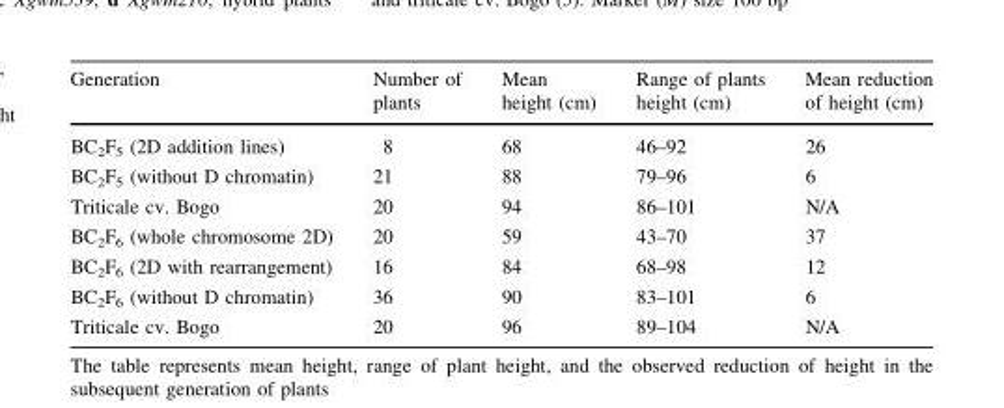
<table><thead><tr><td>Generation</td><td>Number of plants</td><td>Mean height (cm)</td><td>Range of plants height (cm)</td><td>Mean reduction of height (cm)</td></tr></thead><tbody><tr><td>BC<sub>2</sub>F<sub>5</sub> (2D addition lines)</td><td>8</td><td>68</td><td>46–92</td><td>26</td></tr><tr><td>BC<sub>2</sub>F<sub>5</sub> (without D chromatin)</td><td>21</td><td>88</td><td>79–96</td><td>6</td></tr><tr><td>Triticale cv. Bogo</td><td>20</td><td>94</td><td>86–101</td><td>N/A</td></tr><tr><td>BC<sub>2</sub>F<sub>6</sub> (whole chromosome 2D)</td><td>20</td><td>59</td><td>43–70</td><td>37</td></tr><tr><td>BC<sub>2</sub>F<sub>6</sub> (2D with rearrangement)</td><td>16</td><td>84</td><td>68–98</td><td>12</td></tr><tr><td>BC<sub>2</sub>F<sub>6</sub> (without D chromatin)</td><td>36</td><td>90</td><td>83–101</td><td>6</td></tr><tr><td>Triticale cv. Bogo</td><td>20</td><td>96</td><td>89–104</td><td>N/A</td></tr></tbody></table>